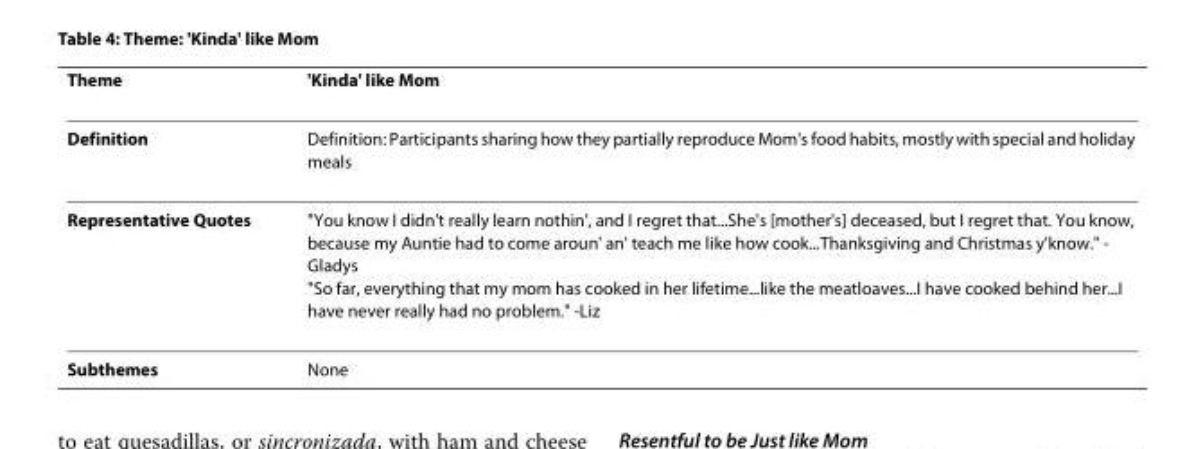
<table><thead><tr><td>Theme</td><td>&#x27;Kinda&#x27; like Mom</td></tr></thead><tbody><tr><td>Definition</td><td>Definition: Participants sharing how they partially reproduce Mom&#x27;s food habits, mostly with special and holiday meals</td></tr><tr><td>Representative Quotes</td><td>&quot;You know I didn&#x27;t really learn nothin&#x27;, and I regret that...She&#x27;s [mother&#x27;s] deceased, but I regret that. You know, because my Auntie had to come aroun&#x27; an&#x27; teach me like how cook...Thanksgiving and Christmas y&#x27;know.&quot; - Gladys &quot;So far, everything that my mom has cooked in her lifetime...like the meatloaves...I have cooked behind her...I have never really had no problem.&quot; -Liz</td></tr><tr><td>Subthemes</td><td>None</td></tr></tbody></table>